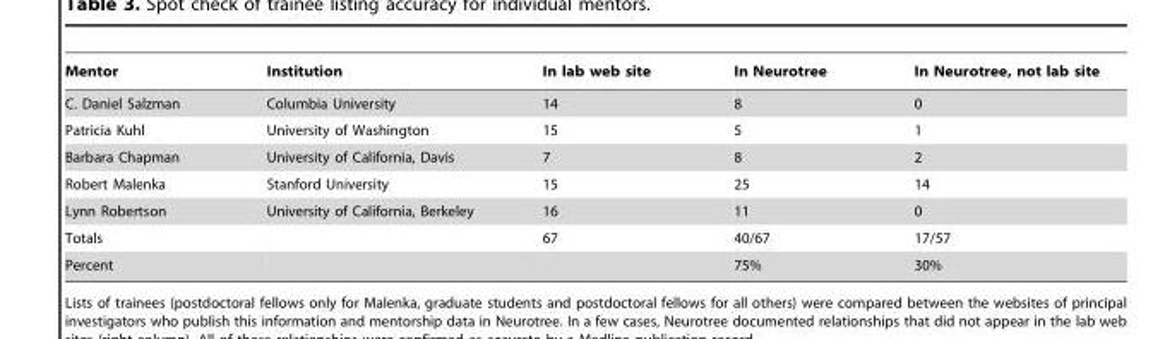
<table><thead><tr><td>Mentor</td><td>Institution</td><td>In lab web site</td><td>In Neurotree</td><td>In Neurotree, not lab site</td></tr></thead><tbody><tr><td>C. Daniel Salzman</td><td>Columbia University</td><td>14</td><td>8</td><td>0</td></tr><tr><td>Patricia Kuhl</td><td>University of Washington</td><td>15</td><td>5</td><td>1</td></tr><tr><td>Barbara Chapman</td><td>University of California, Davis</td><td>7</td><td>8</td><td>2</td></tr><tr><td>Robert Malenka</td><td>Stanford University</td><td>15</td><td>25</td><td>14</td></tr><tr><td>Lynn Robertson</td><td>University of California, Berkeley</td><td>16</td><td>11</td><td>0</td></tr><tr><td>Totals</td><td></td><td>67</td><td>40/67</td><td>17/57</td></tr><tr><td>Percent</td><td></td><td></td><td>75%</td><td>30%</td></tr></tbody></table>